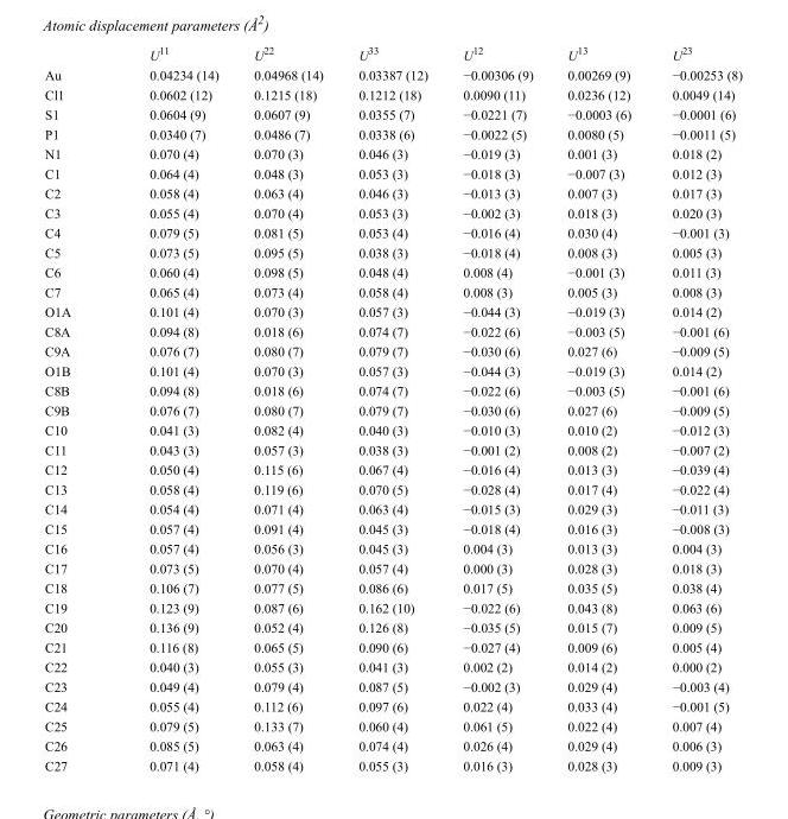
<table><thead><tr><td></td><td>U<sup>11</sup></td><td>U<sup>22</sup></td><td>U<sup>33</sup></td><td>U<sup>12</sup></td><td>U<sup>13</sup></td><td>U<sup>23</sup></td></tr></thead><tbody><tr><td>Au</td><td>0.04234 (14)</td><td>0.04968 (14)</td><td>0.03387 (12)</td><td>−0.00306 (9)</td><td>0.00269 (9)</td><td>−0.00253 (8)</td></tr><tr><td>Cl1</td><td>0.0602 (12)</td><td>0.1215 (18)</td><td>0.1212 (18)</td><td>0.0090 (11)</td><td>0.0236 (12)</td><td>0.0049 (14)</td></tr><tr><td>S1</td><td>0.0604 (9)</td><td>0.0607 (9)</td><td>0.0355 (7)</td><td>−0.0221 (7)</td><td>−0.0003 (6)</td><td>−0.0001 (6)</td></tr><tr><td>P1</td><td>0.0340 (7)</td><td>0.0486 (7)</td><td>0.0338 (6)</td><td>−0.0022 (5)</td><td>0.0080 (5)</td><td>−0.0011 (5)</td></tr><tr><td>N1</td><td>0.070 (4)</td><td>0.070 (3)</td><td>0.046 (3)</td><td>−0.019 (3)</td><td>0.001 (3)</td><td>0.018 (2)</td></tr><tr><td>C1</td><td>0.064 (4)</td><td>0.048 (3)</td><td>0.053 (3)</td><td>−0.018 (3)</td><td>−0.007 (3)</td><td>0.012 (3)</td></tr><tr><td>C2</td><td>0.058 (4)</td><td>0.063 (4)</td><td>0.046 (3)</td><td>−0.013 (3)</td><td>0.007 (3)</td><td>0.017 (3)</td></tr><tr><td>C3</td><td>0.055 (4)</td><td>0.070 (4)</td><td>0.053 (3)</td><td>−0.002 (3)</td><td>0.018 (3)</td><td>0.020 (3)</td></tr><tr><td>C4</td><td>0.079 (5)</td><td>0.081 (5)</td><td>0.053 (4)</td><td>−0.016 (4)</td><td>0.030 (4)</td><td>−0.001 (3)</td></tr><tr><td>C5</td><td>0.073 (5)</td><td>0.095 (5)</td><td>0.038 (3)</td><td>−0.018 (4)</td><td>0.008 (3)</td><td>0.005 (3)</td></tr><tr><td>C6</td><td>0.060 (4)</td><td>0.098 (5)</td><td>0.048 (4)</td><td>0.008 (4)</td><td>−0.001 (3)</td><td>0.011 (3)</td></tr><tr><td>C7</td><td>0.065 (4)</td><td>0.073 (4)</td><td>0.058 (4)</td><td>0.008 (3)</td><td>0.005 (3)</td><td>0.008 (3)</td></tr><tr><td>O1A</td><td>0.101 (4)</td><td>0.070 (3)</td><td>0.057 (3)</td><td>−0.044 (3)</td><td>−0.019 (3)</td><td>0.014 (2)</td></tr><tr><td>C8A</td><td>0.094 (8)</td><td>0.018 (6)</td><td>0.074 (7)</td><td>−0.022 (6)</td><td>−0.003 (5)</td><td>−0.001 (6)</td></tr><tr><td>C9A</td><td>0.076 (7)</td><td>0.080 (7)</td><td>0.079 (7)</td><td>−0.030 (6)</td><td>0.027 (6)</td><td>−0.009 (5)</td></tr><tr><td>O1B</td><td>0.101 (4)</td><td>0.070 (3)</td><td>0.057 (3)</td><td>−0.044 (3)</td><td>−0.019 (3)</td><td>0.014 (2)</td></tr><tr><td>C8B</td><td>0.094 (8)</td><td>0.018 (6)</td><td>0.074 (7)</td><td>−0.022 (6)</td><td>−0.003 (5)</td><td>−0.001 (6)</td></tr><tr><td>C9B</td><td>0.076 (7)</td><td>0.080 (7)</td><td>0.079 (7)</td><td>−0.030 (6)</td><td>0.027 (6)</td><td>−0.009 (5)</td></tr><tr><td>C10</td><td>0.041 (3)</td><td>0.082 (4)</td><td>0.040 (3)</td><td>−0.010 (3)</td><td>0.010 (2)</td><td>−0.012 (3)</td></tr><tr><td>C11</td><td>0.043 (3)</td><td>0.057 (3)</td><td>0.038 (3)</td><td>−0.001 (2)</td><td>0.008 (2)</td><td>−0.007 (2)</td></tr><tr><td>C12</td><td>0.050 (4)</td><td>0.115 (6)</td><td>0.067 (4)</td><td>−0.016 (4)</td><td>0.013 (3)</td><td>−0.039 (4)</td></tr><tr><td>C13</td><td>0.058 (4)</td><td>0.119 (6)</td><td>0.070 (5)</td><td>−0.028 (4)</td><td>0.017 (4)</td><td>−0.022 (4)</td></tr><tr><td>C14</td><td>0.054 (4)</td><td>0.071 (4)</td><td>0.063 (4)</td><td>−0.015 (3)</td><td>0.029 (3)</td><td>−0.011 (3)</td></tr><tr><td>C15</td><td>0.057 (4)</td><td>0.091 (4)</td><td>0.045 (3)</td><td>−0.018 (4)</td><td>0.016 (3)</td><td>−0.008 (3)</td></tr><tr><td>C16</td><td>0.057 (4)</td><td>0.056 (3)</td><td>0.045 (3)</td><td>0.004 (3)</td><td>0.013 (3)</td><td>0.004 (3)</td></tr><tr><td>C17</td><td>0.073 (5)</td><td>0.070 (4)</td><td>0.057 (4)</td><td>0.000 (3)</td><td>0.028 (3)</td><td>0.018 (3)</td></tr><tr><td>C18</td><td>0.106 (7)</td><td>0.077 (5)</td><td>0.086 (6)</td><td>0.017 (5)</td><td>0.035 (5)</td><td>0.038 (4)</td></tr><tr><td>C19</td><td>0.123 (9)</td><td>0.087 (6)</td><td>0.162 (10)</td><td>−0.022 (6)</td><td>0.043 (8)</td><td>0.063 (6)</td></tr><tr><td>C20</td><td>0.136 (9)</td><td>0.052 (4)</td><td>0.126 (8)</td><td>−0.035 (5)</td><td>0.015 (7)</td><td>0.009 (5)</td></tr><tr><td>C21</td><td>0.116 (8)</td><td>0.065 (5)</td><td>0.090 (6)</td><td>−0.027 (4)</td><td>0.009 (6)</td><td>0.005 (4)</td></tr><tr><td>C22</td><td>0.040 (3)</td><td>0.055 (3)</td><td>0.041 (3)</td><td>0.002 (2)</td><td>0.014 (2)</td><td>0.000 (2)</td></tr><tr><td>C23</td><td>0.049 (4)</td><td>0.079 (4)</td><td>0.087 (5)</td><td>−0.002 (3)</td><td>0.029 (4)</td><td>−0.003 (4)</td></tr><tr><td>C24</td><td>0.055 (4)</td><td>0.112 (6)</td><td>0.097 (6)</td><td>0.022 (4)</td><td>0.033 (4)</td><td>−0.001 (5)</td></tr><tr><td>C25</td><td>0.079 (5)</td><td>0.133 (7)</td><td>0.060 (4)</td><td>0.061 (5)</td><td>0.022 (4)</td><td>0.007 (4)</td></tr><tr><td>C26</td><td>0.085 (5)</td><td>0.063 (4)</td><td>0.074 (4)</td><td>0.026 (4)</td><td>0.029 (4)</td><td>0.006 (3)</td></tr><tr><td>C27</td><td>0.071 (4)</td><td>0.058 (4)</td><td>0.055 (3)</td><td>0.016 (3)</td><td>0.028 (3)</td><td>0.009 (3)</td></tr></tbody></table>